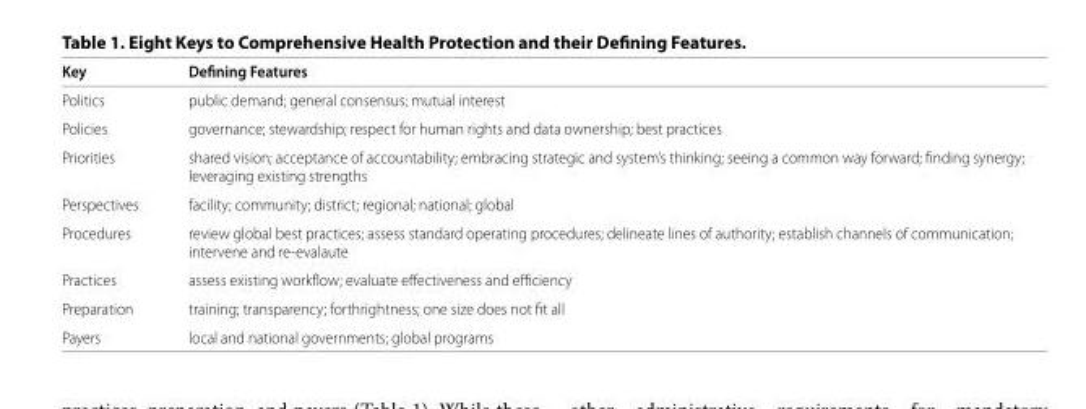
<table><thead><tr><td>Key</td><td>Defi ning Features</td></tr></thead><tbody><tr><td>Politics</td><td>public demand; general consensus; mutual interest</td></tr><tr><td>Policies</td><td>governance; stewardship; respect for human rights and data ownership; best practices</td></tr><tr><td>Priorities</td><td>shared vision; acceptance of accountability; embracing strategic and system’s thinking; seeing a common way forward; fi nding synergy; leveraging existing strengths</td></tr><tr><td>Perspectives</td><td>facility; community; district; regional; national; global</td></tr><tr><td>Procedures</td><td>review global best practices; assess standard operating procedures; delineate lines of authority; establish channels of communication; intervene and re-evalaute</td></tr><tr><td>Practices</td><td>assess existing workfl ow; evaluate eff ectiveness and effi ciency</td></tr><tr><td>Preparation</td><td>training; transparency; forthrightness; one size does not fi t all</td></tr><tr><td>Payers</td><td>local and national governments; global programs</td></tr></tbody></table>